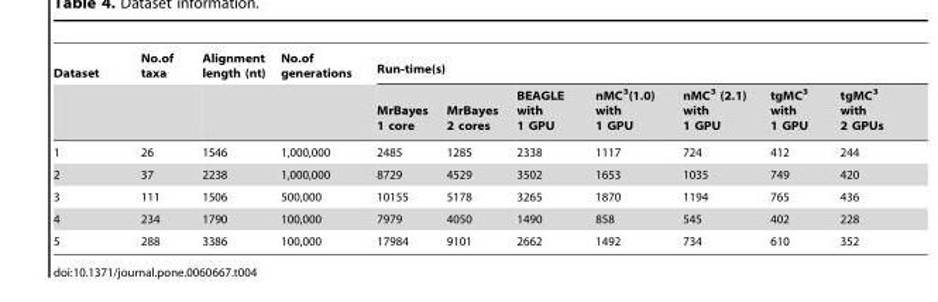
<table><thead><tr><td rowspan="2">Dataset</td><td rowspan="2">No.of taxa</td><td rowspan="2">Alignment length (nt)</td><td rowspan="2">No.of generations</td><td colspan="7">Run-time(s)</td></tr><tr><td>MrBayes 1 core</td><td>MrBayes 2 cores</td><td>BEAGLE with 1 GPU</td><td>nMC<sup>3</sup>(1.0) with 1 GPU</td><td>nMC<sup>3</sup> (2.1) with 1 GPU</td><td>tgMC<sup>3</sup> with 1 GPU</td><td>tgMC<sup>3</sup> with 2 GPUs</td></tr></thead><tbody><tr><td>1</td><td>26</td><td>1546</td><td>1,000,000</td><td>2485</td><td>1285</td><td>2338</td><td>1117</td><td>724</td><td>412</td><td>244</td></tr><tr><td>2</td><td>37</td><td>2238</td><td>1,000,000</td><td>8729</td><td>4529</td><td>3502</td><td>1653</td><td>1035</td><td>749</td><td>420</td></tr><tr><td>3</td><td>111</td><td>1506</td><td>500,000</td><td>10155</td><td>5178</td><td>3265</td><td>1870</td><td>1194</td><td>765</td><td>436</td></tr><tr><td>4</td><td>234</td><td>1790</td><td>100,000</td><td>7979</td><td>4050</td><td>1490</td><td>858</td><td>545</td><td>402</td><td>228</td></tr><tr><td>5</td><td>288</td><td>3386</td><td>100,000</td><td>17984</td><td>9101</td><td>2662</td><td>1492</td><td>734</td><td>610</td><td>352</td></tr></tbody></table>